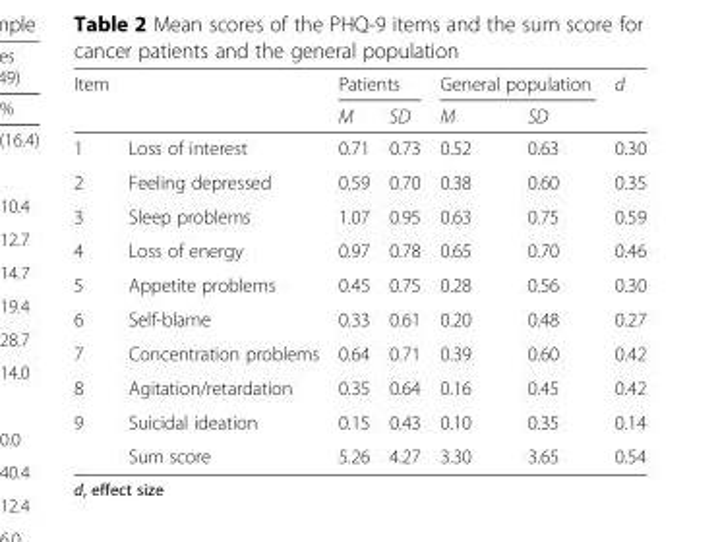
<table><thead><tr><td rowspan="2">Item</td><td rowspan="2"></td><td colspan="2">Patients</td><td colspan="2">General population</td><td rowspan="2">d</td></tr><tr><td>M</td><td>SD</td><td>M</td><td>SD</td></tr></thead><tbody><tr><td>1</td><td>Loss of interest</td><td>0.71</td><td>0.73</td><td>0.52</td><td>0.63</td><td>0.30</td></tr><tr><td>2</td><td>Feeling depressed</td><td>0.59</td><td>0.70</td><td>0.38</td><td>0.60</td><td>0.35</td></tr><tr><td>3</td><td>Sleep problems</td><td>1.07</td><td>0.95</td><td>0.63</td><td>0.75</td><td>0.59</td></tr><tr><td>4</td><td>Loss of energy</td><td>0.97</td><td>0.78</td><td>0.65</td><td>0.70</td><td>0.46</td></tr><tr><td>5</td><td>Appetite problems</td><td>0.45</td><td>0.75</td><td>0.28</td><td>0.56</td><td>0.30</td></tr><tr><td>6</td><td>Self-blame</td><td>0.33</td><td>0.61</td><td>0.20</td><td>0.48</td><td>0.27</td></tr><tr><td>7</td><td>Concentration problems</td><td>0.64</td><td>0.71</td><td>0.39</td><td>0.60</td><td>0.42</td></tr><tr><td>8</td><td>Agitation/retardation</td><td>0.35</td><td>0.64</td><td>0.16</td><td>0.45</td><td>0.42</td></tr><tr><td rowspan="2">9</td><td>Suicidal ideation</td><td>0.15</td><td>0.43</td><td>0.10</td><td>0.35</td><td>0.14</td></tr><tr><td>Sum score</td><td>5.26</td><td>4.27</td><td>3.30</td><td>3.65</td><td>0.54</td></tr></tbody></table>